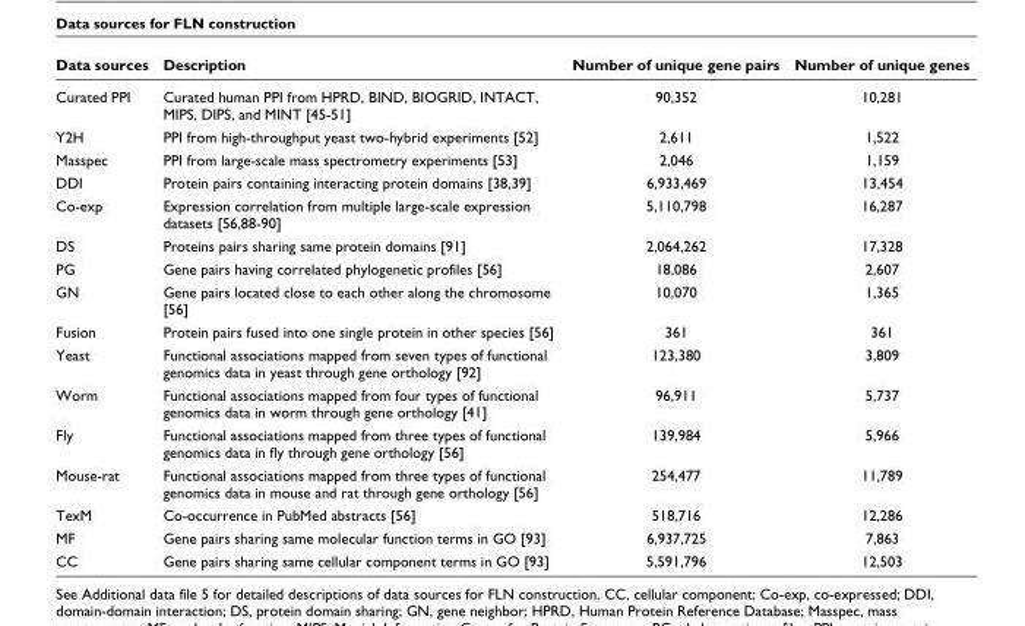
<table><thead><tr><td>Data sources</td><td>Description</td><td>Number of unique gene pairs</td><td>Number of unique genes</td></tr></thead><tbody><tr><td>Curated PPI</td><td>Curated human PPI from HPRD, BIND, BIOGRID, INTACT, MIPS, DIPS, and MINT [45-51]</td><td>90,352</td><td>10,281</td></tr><tr><td>Y2H</td><td>PPI from high-throughput yeast two-hybrid experiments [52]</td><td>2,611</td><td>1,522</td></tr><tr><td>Masspec</td><td>PPI from large-scale mass spectrometry experiments [53]</td><td>2,046</td><td>1,159</td></tr><tr><td>DDI</td><td>Protein pairs containing interacting protein domains [38,39]</td><td>6,933,469</td><td>13,454</td></tr><tr><td>Co-exp</td><td>Expression correlation from multiple large-scale expression datasets [56,88-90]</td><td>5,110,798</td><td>16,287</td></tr><tr><td>DS</td><td>Proteins pairs sharing same protein domains [91]</td><td>2,064,262</td><td>17,328</td></tr><tr><td>PG</td><td>Gene pairs having correlated phylogenetic profiles [56]</td><td>18,086</td><td>2,607</td></tr><tr><td>GN</td><td>Gene pairs located close to each other along the chromosome [56]</td><td>10,070</td><td>1,365</td></tr><tr><td>Fusion</td><td>Protein pairs fused into one single protein in other species [56]</td><td>361</td><td>361</td></tr><tr><td>Yeast</td><td>Functional associations mapped from seven types of functional genomics data in yeast through gene orthology [92]</td><td>123,380</td><td>3,809</td></tr><tr><td>Worm</td><td>Functional associations mapped from four types of functional genomics data in worm through gene orthology [41]</td><td>96,911</td><td>5,737</td></tr><tr><td>Fly</td><td>Functional associations mapped from three types of functional genomics data in fly through gene orthology [56]</td><td>139,984</td><td>5,966</td></tr><tr><td>Mouse-rat</td><td>Functional associations mapped from three types of functional genomics data in mouse and rat through gene orthology [56]</td><td>254,477</td><td>11,789</td></tr><tr><td>TexM</td><td>Co-occurrence in PubMed abstracts [56]</td><td>518,716</td><td>12,286</td></tr><tr><td>MF</td><td>Gene pairs sharing same molecular function terms in GO [93]</td><td>6,937,725</td><td>7,863</td></tr><tr><td>CC</td><td>Gene pairs sharing same cellular component terms in GO [93]</td><td>5,591,796</td><td>12,503</td></tr></tbody></table>